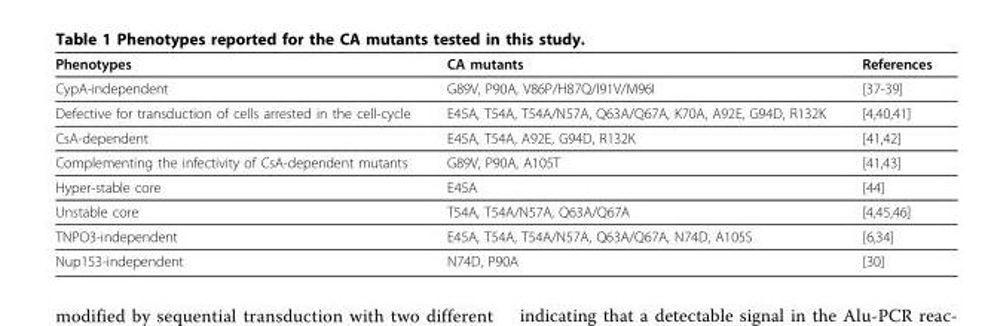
<table><thead><tr><td>Phenotypes</td><td>CA mutants</td><td>References</td></tr></thead><tbody><tr><td>CypA-independent</td><td>G89V, P90A, V86P/H87Q/I91V/M96I</td><td>[37-39]</td></tr><tr><td>Defective for transduction of cells arrested in the cell-cycle</td><td>E45A, T54A, T54A/N57A, Q63A/Q67A, K70A, A92E, G94D, R132K</td><td>[4,40,41]</td></tr><tr><td>CsA-dependent</td><td>E45A, T54A, A92E, G94D, R132K</td><td>[41,42]</td></tr><tr><td>Complementing the infectivity of CsA-dependent mutants</td><td>G89V, P90A, A105T</td><td>[41,43]</td></tr><tr><td>Hyper-stable core</td><td>E45A</td><td>[44]</td></tr><tr><td>Unstable core</td><td>T54A, T54A/N57A, Q63A/Q67A</td><td>[4,45,46]</td></tr><tr><td>TNPO3-independent</td><td>E45A, T54A, T54A/N57A, Q63A/Q67A, N74D, A105S</td><td>[6,34]</td></tr><tr><td>Nup153-independent</td><td>N74D, P90A</td><td>[30]</td></tr></tbody></table>